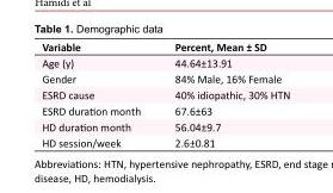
<table><tbody><tr><td>Variable</td><td>Percent, Mean ± SD</td></tr><tr><td>Age (y)</td><td>44.64±13.91</td></tr><tr><td>Gender</td><td>84% Male, 16% Female</td></tr><tr><td>ESRD cause</td><td>40% idiopathic, 30% HTN</td></tr><tr><td>ESRD duration month</td><td>67.6±63</td></tr><tr><td>HD duration month</td><td>56.04±9.7</td></tr><tr><td>HD session/week</td><td>2.6±0.81</td></tr></tbody></table>